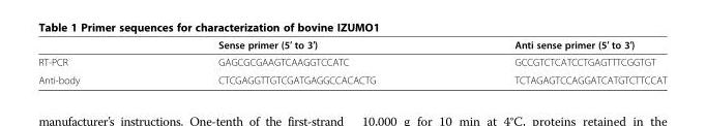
<table><thead><tr><td></td><td>Sense primer (5′ to 3′)</td><td>Anti sense primer (5′ to 3′)</td></tr></thead><tbody><tr><td>RT-PCR</td><td>GAGCGCGAAGTCAAGGTCCATC</td><td>GCCGTCTCATCCTGAGTTTCGGTGT</td></tr><tr><td>Anti-body</td><td>CTCGAGGTTGTCGATGAGGCCACACTG</td><td>TCTAGAGTCCAGGATCATGTCTTCCAT</td></tr></tbody></table>